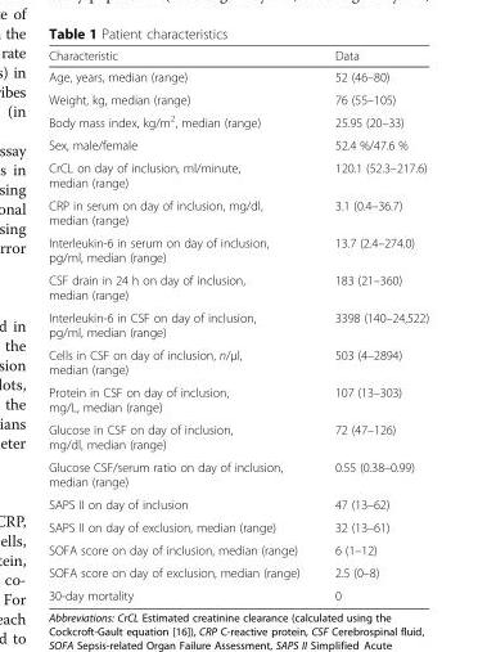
<table><thead><tr><td>Characteristic</td><td>Data</td></tr></thead><tbody><tr><td>Age, years, median (range)</td><td>52 (46–80)</td></tr><tr><td>Weight, kg, median (range)</td><td>76 (55–105)</td></tr><tr><td>Body mass index, kg/m<sup>2</sup>, median (range)</td><td>25.95 (20–33)</td></tr><tr><td>Sex, male/female</td><td>52.4 %/47.6 %</td></tr><tr><td>CrCL on day of inclusion, ml/minute, median (range)</td><td>120.1 (52.3–217.6)</td></tr><tr><td>CRP in serum on day of inclusion, mg/dl, median (range)</td><td>3.1 (0.4–36.7)</td></tr><tr><td>Interleukin-6 in serum on day of inclusion, pg/ml, median (range)</td><td>13.7 (2.4–274.0)</td></tr><tr><td>CSF drain in 24 h on day of inclusion, median (range)</td><td>183 (21–360)</td></tr><tr><td>Interleukin-6 in CSF on day of inclusion, pg/ml, median (range)</td><td>3398 (140–24,522)</td></tr><tr><td>Cells in CSF on day of inclusion, n/μl, median (range)</td><td>503 (4–2894)</td></tr><tr><td>Protein in CSF on day of inclusion, mg/L, median (range)</td><td>107 (13–303)</td></tr><tr><td>Glucose in CSF on day of inclusion, mg/dl, median (range)</td><td>72 (47–126)</td></tr><tr><td>Glucose CSF/serum ratio on day of inclusion, median (range)</td><td>0.55 (0.38–0.99)</td></tr><tr><td>SAPS II on day of inclusion</td><td>47 (13–62)</td></tr><tr><td>SAPS II on day of exclusion, median (range)</td><td>32 (13–61)</td></tr><tr><td>SOFA score on day of inclusion, median (range)</td><td>6 (1–12)</td></tr><tr><td>SOFA score on day of exclusion, median (range)</td><td>2.5 (0–8)</td></tr><tr><td>30-day mortality</td><td>0</td></tr></tbody></table>